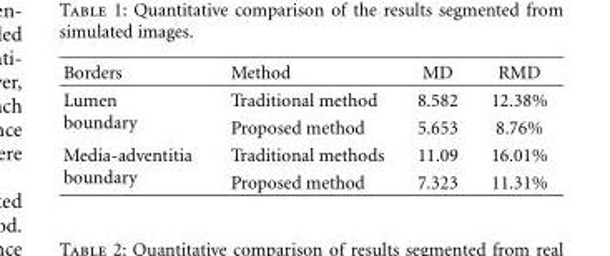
<table><thead><tr><td>Borders</td><td>Method</td><td>MD</td><td>RMD</td></tr></thead><tbody><tr><td rowspan="2">Lumen boundary</td><td>Traditional method</td><td>8.582</td><td>12.38%</td></tr><tr><td>Proposed method</td><td>5.653</td><td>8.76%</td></tr><tr><td rowspan="2">Media-adventitia boundary</td><td>Traditional methods</td><td>11.09</td><td>16.01%</td></tr><tr><td>Proposed method</td><td>7.323</td><td>11.31%</td></tr></tbody></table>